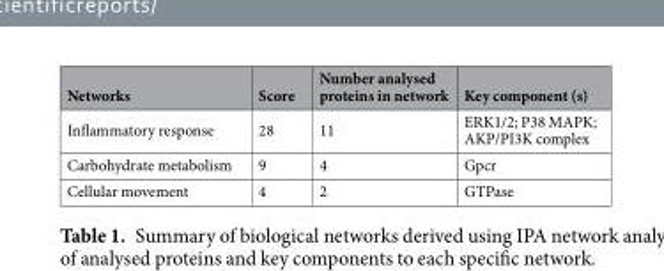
<table><thead><tr><td>Networks</td><td>Score</td><td>Number analysed proteins in network</td><td>Key component (s)</td></tr></thead><tbody><tr><td>Inflammatory response</td><td>28</td><td>11</td><td>ERK1/2; P38 MAPK; AKP/PI3K complex</td></tr><tr><td>Carbohydrate metabolism</td><td>9</td><td>4</td><td>Gpcr</td></tr><tr><td>Cellular movement</td><td>4</td><td>2</td><td>GTPase</td></tr></tbody></table>